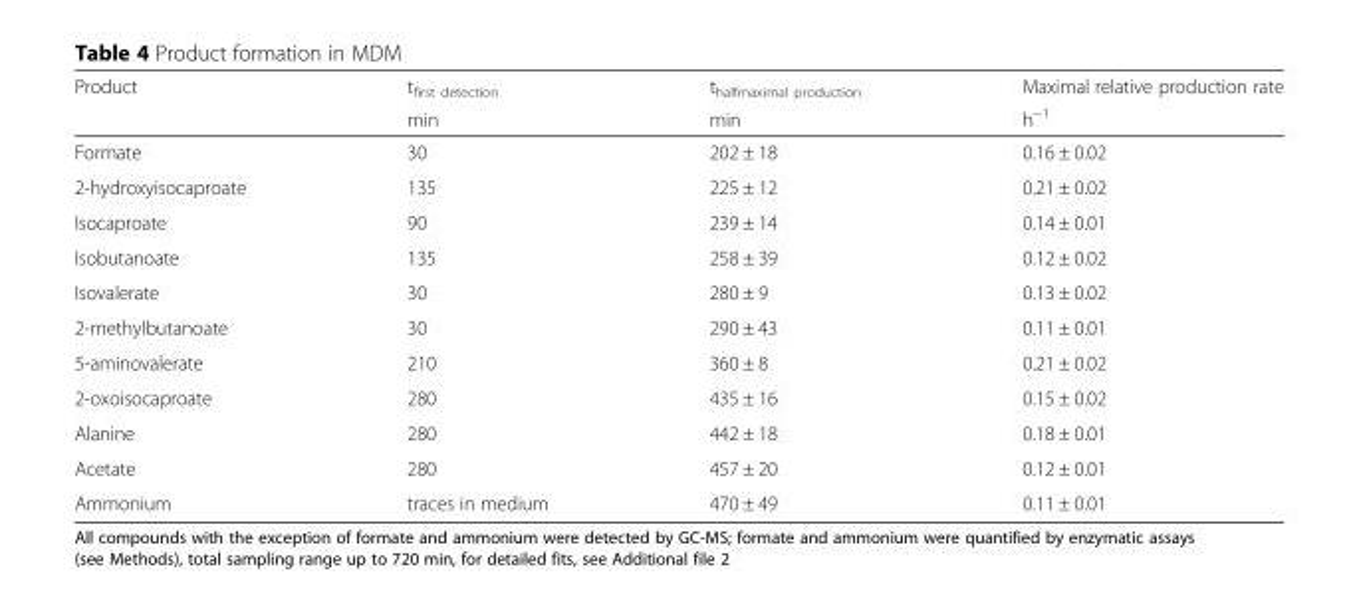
<table><thead><tr><td rowspan="2">Product</td><td rowspan="2">t<sub>first detection</sub> min</td><td rowspan="2">t<sub>halfmaximal production</sub> min</td><td rowspan="2">Maximal relative production rate h<sup>−1</sup></td></tr><tr></tr></thead><tbody><tr><td>Formate</td><td>30</td><td>202 ± 18</td><td>0.16 ± 0.02</td></tr><tr><td>2-hydroxyisocaproate</td><td>135</td><td>225 ± 12</td><td>0.21 ± 0.02</td></tr><tr><td>Isocaproate</td><td>90</td><td>239 ± 14</td><td>0.14 ± 0.01</td></tr><tr><td>Isobutanoate</td><td>135</td><td>258 ± 39</td><td>0.12 ± 0.02</td></tr><tr><td>Isovalerate</td><td>30</td><td>280 ± 9</td><td>0.13 ± 0.02</td></tr><tr><td>2-methylbutanoate</td><td>30</td><td>290 ± 43</td><td>0.11 ± 0.01</td></tr><tr><td>5-aminovalerate</td><td>210</td><td>360 ± 8</td><td>0.21 ± 0.02</td></tr><tr><td>2-oxoisocaproate</td><td>280</td><td>435 ± 16</td><td>0.15 ± 0.02</td></tr><tr><td>Alanine</td><td>280</td><td>442 ± 18</td><td>0.18 ± 0.01</td></tr><tr><td>Acetate</td><td>280</td><td>457 ± 20</td><td>0.12 ± 0.01</td></tr><tr><td>Ammonium</td><td>traces in medium</td><td>470 ± 49</td><td>0.11 ± 0.01</td></tr></tbody></table>